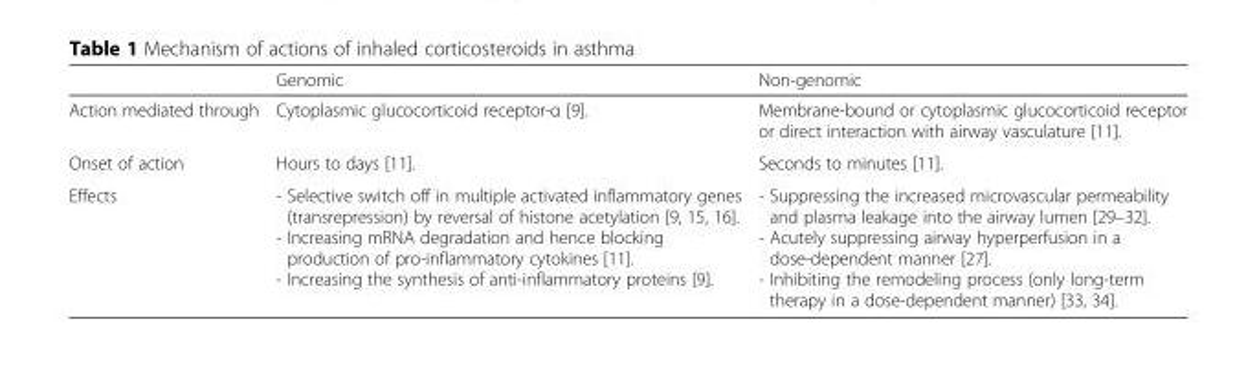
<table><thead><tr><td></td><td>Genomic</td><td>Non-genomic</td></tr></thead><tbody><tr><td>Action mediated through</td><td>Cytoplasmic glucocorticoid receptor-α [9].</td><td>Membrane-bound or cytoplasmic glucocorticoid receptor or direct interaction with airway vasculature [11].</td></tr><tr><td>Onset of action</td><td>Hours to days [11].</td><td>Seconds to minutes [11].</td></tr><tr><td>Effects</td><td>- Selective switch off in multiple activated inflammatory genes (transrepression) by reversal of histone acetylation [9, 15, 16]. - Increasing mRNA degradation and hence blocking production of pro-inflammatory cytokines [11]. - Increasing the synthesis of anti-inflammatory proteins [9].</td><td>- Suppressing the increased microvascular permeability and plasma leakage into the airway lumen [29–32]. - Acutely suppressing airway hyperperfusion in a dose-dependent manner [27]. - Inhibiting the remodeling process (only long-term therapy in a dose-dependent manner) [33, 34].</td></tr></tbody></table>